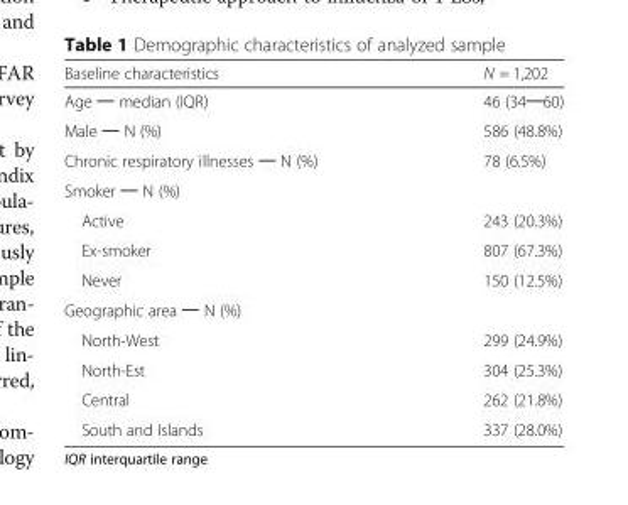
<table><thead><tr><td>Baseline characteristics</td><td>N = 1,202</td></tr></thead><tbody><tr><td>Age ─ median (IQR)</td><td>46 (34─60)</td></tr><tr><td>Male ─ N (%)</td><td>586 (48.8%)</td></tr><tr><td>Chronic respiratory illnesses ─ N (%)</td><td>78 (6.5%)</td></tr><tr><td colspan="2">Smoker ─ N (%)</td></tr><tr><td>Active</td><td>243 (20.3%)</td></tr><tr><td>Ex-smoker</td><td>807 (67.3%)</td></tr><tr><td>Never</td><td>150 (12.5%)</td></tr><tr><td colspan="2">Geographic area ─ N (%)</td></tr><tr><td>North-West</td><td>299 (24.9%)</td></tr><tr><td>North-Est</td><td>304 (25.3%)</td></tr><tr><td>Central</td><td>262 (21.8%)</td></tr><tr><td>South and Islands</td><td>337 (28.0%)</td></tr></tbody></table>